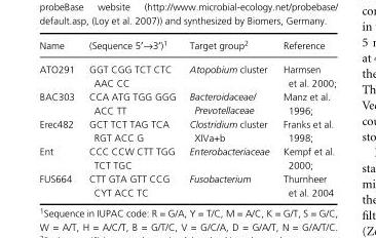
<table><thead><tr><td>Name</td><td>(Sequence 5′→3′)1</td><td>Target group2</td><td>Reference</td></tr></thead><tbody><tr><td>ATO291</td><td>GGT CGG TCT CTC AAC CC</td><td>Atopobium cluster</td><td>Harmsen et al. 2000;</td></tr><tr><td>BAC303</td><td>CCA ATG TGG GGG ACC TT</td><td>Bacteroidaceae/ Prevotellaceae</td><td>Manz et al. 1996;</td></tr><tr><td>Erec482</td><td>GCT TCT TAG TCA RGT ACC G</td><td>Clostridium cluster XIVa+b</td><td>Franks et al. 1998;</td></tr><tr><td>Ent</td><td>CCC CCW CTT TGG TCT TGC</td><td>Enterobacteriaceae</td><td>Kempf et al. 2000;</td></tr><tr><td>FUS664</td><td>CTT GTA GTT CCG CYT ACC TC</td><td>Fusobacterium</td><td>Thurnheer et al. 2004</td></tr></tbody></table>